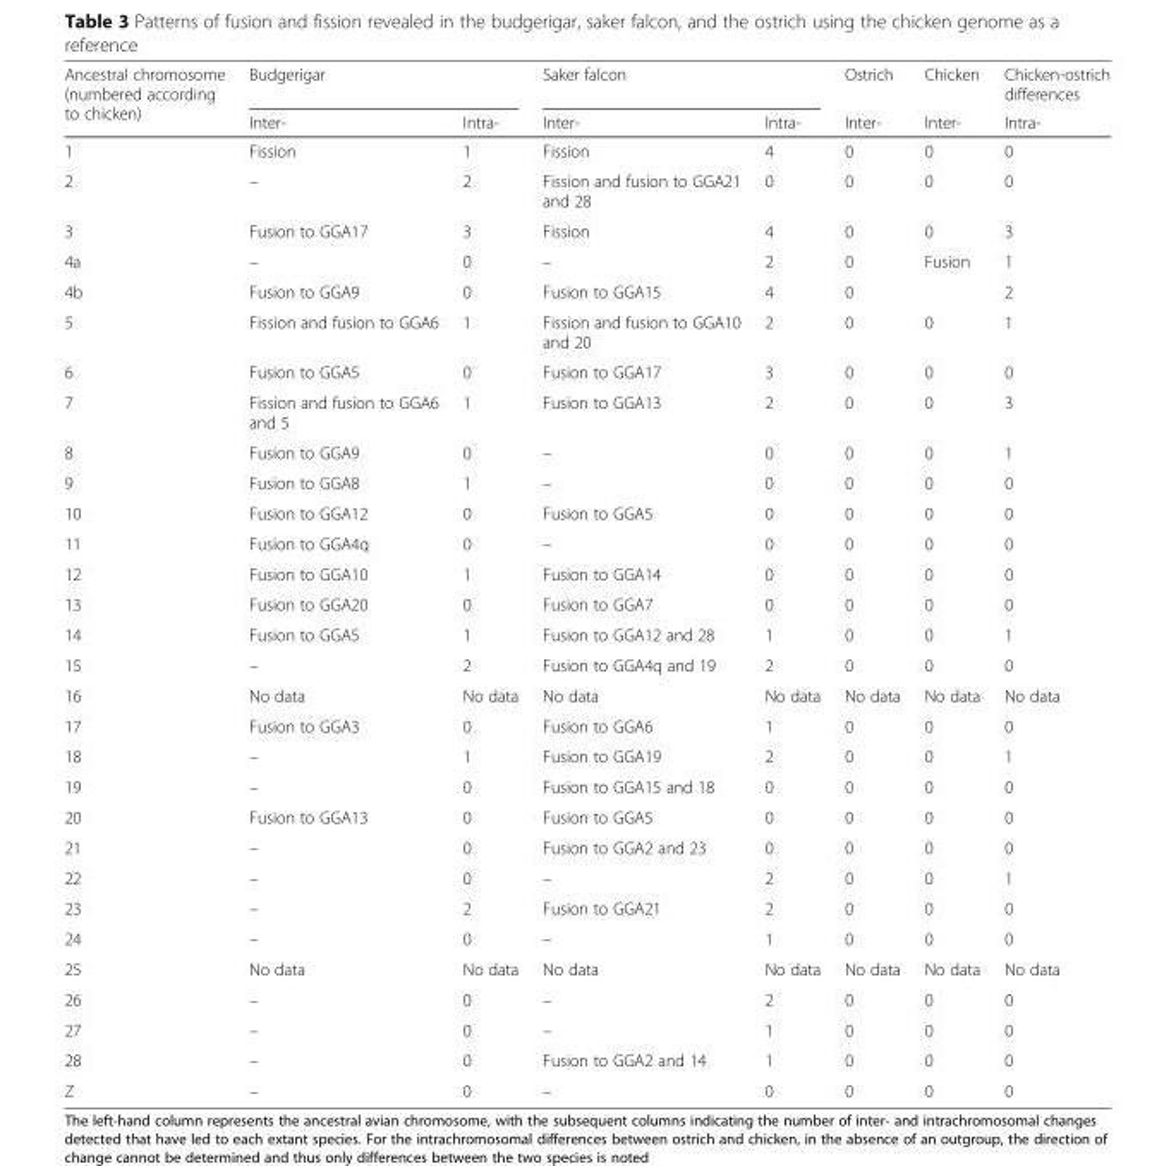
<table><thead><tr><td rowspan="2">Ancestral chromosome (numbered according to chicken)</td><td colspan="2">Budgerigar</td><td colspan="2">Saker falcon</td><td rowspan="2">Ostrich Inter-</td><td rowspan="2">Chicken Inter-</td><td rowspan="2">Chicken-ostrich differences Intra-</td></tr><tr><td>Inter-</td><td>Intra-</td><td>Inter-</td><td>Intra-</td></tr></thead><tbody><tr><td>1</td><td>Fission</td><td>1</td><td>Fission</td><td>4</td><td>0</td><td>0</td><td>0</td></tr><tr><td>2</td><td>–</td><td>2</td><td>Fission and fusion to GGA21 and 28</td><td>0</td><td>0</td><td>0</td><td>0</td></tr><tr><td>3</td><td>Fusion to GGA17</td><td>3</td><td>Fission</td><td>4</td><td>0</td><td>0</td><td>3</td></tr><tr><td>4a</td><td>–</td><td>0</td><td>–</td><td>2</td><td>0</td><td rowspan="2">Fusion</td><td>1</td></tr><tr><td>4b</td><td>Fusion to GGA9</td><td>0</td><td>Fusion to GGA15</td><td>4</td><td>0</td><td>2</td></tr><tr><td>5</td><td>Fission and fusion to GGA6</td><td>1</td><td>Fission and fusion to GGA10 and 20</td><td>2</td><td>0</td><td>0</td><td>1</td></tr><tr><td>6</td><td>Fusion to GGA5</td><td>0</td><td>Fusion to GGA17</td><td>3</td><td>0</td><td>0</td><td>0</td></tr><tr><td>7</td><td>Fission and fusion to GGA6 and 5</td><td>1</td><td>Fusion to GGA13</td><td>2</td><td>0</td><td>0</td><td>3</td></tr><tr><td>8</td><td>Fusion to GGA9</td><td>0</td><td>–</td><td>0</td><td>0</td><td>0</td><td>1</td></tr><tr><td>9</td><td>Fusion to GGA8</td><td>1</td><td>–</td><td>0</td><td>0</td><td>0</td><td>0</td></tr><tr><td>10</td><td>Fusion to GGA12</td><td>0</td><td>Fusion to GGA5</td><td>0</td><td>0</td><td>0</td><td>0</td></tr><tr><td>11</td><td>Fusion to GGA4q</td><td>0</td><td>–</td><td>0</td><td>0</td><td>0</td><td>0</td></tr><tr><td>12</td><td>Fusion to GGA10</td><td>1</td><td>Fusion to GGA14</td><td>0</td><td>0</td><td>0</td><td>0</td></tr><tr><td>13</td><td>Fusion to GGA20</td><td>0</td><td>Fusion to GGA7</td><td>0</td><td>0</td><td>0</td><td>0</td></tr><tr><td>14</td><td>Fusion to GGA5</td><td>1</td><td>Fusion to GGA12 and 28</td><td>1</td><td>0</td><td>0</td><td>1</td></tr><tr><td>15</td><td>–</td><td>2</td><td>Fusion to GGA4q and 19</td><td>2</td><td>0</td><td>0</td><td>0</td></tr><tr><td>16</td><td>No data</td><td>No data</td><td>No data</td><td>No data</td><td>No data</td><td>No data</td><td>No data</td></tr><tr><td>17</td><td>Fusion to GGA3</td><td>0</td><td>Fusion to GGA6</td><td>1</td><td>0</td><td>0</td><td>0</td></tr><tr><td>18</td><td>–</td><td>1</td><td>Fusion to GGA19</td><td>2</td><td>0</td><td>0</td><td>1</td></tr><tr><td>19</td><td>–</td><td>0</td><td>Fusion to GGA15 and 18</td><td>0</td><td>0</td><td>0</td><td>0</td></tr><tr><td>20</td><td>Fusion to GGA13</td><td>0</td><td>Fusion to GGA5</td><td>0</td><td>0</td><td>0</td><td>0</td></tr><tr><td>21</td><td>–</td><td>0</td><td>Fusion to GGA2 and 23</td><td>0</td><td>0</td><td>0</td><td>0</td></tr><tr><td>22</td><td>–</td><td>0</td><td>–</td><td>2</td><td>0</td><td>0</td><td>1</td></tr><tr><td>23</td><td>–</td><td>2</td><td>Fusion to GGA21</td><td>2</td><td>0</td><td>0</td><td>0</td></tr><tr><td>24</td><td>–</td><td>0</td><td>–</td><td>1</td><td>0</td><td>0</td><td>0</td></tr><tr><td>25</td><td>No data</td><td>No data</td><td>No data</td><td>No data</td><td>No data</td><td>No data</td><td>No data</td></tr><tr><td>26</td><td>–</td><td>0</td><td>–</td><td>2</td><td>0</td><td>0</td><td>0</td></tr><tr><td>27</td><td>–</td><td>0</td><td>–</td><td>1</td><td>0</td><td>0</td><td>0</td></tr><tr><td>28</td><td>–</td><td>0</td><td>Fusion to GGA2 and 14</td><td>1</td><td>0</td><td>0</td><td>0</td></tr><tr><td>Z</td><td>–</td><td>0</td><td>–</td><td>0</td><td>0</td><td>0</td><td>0</td></tr></tbody></table>